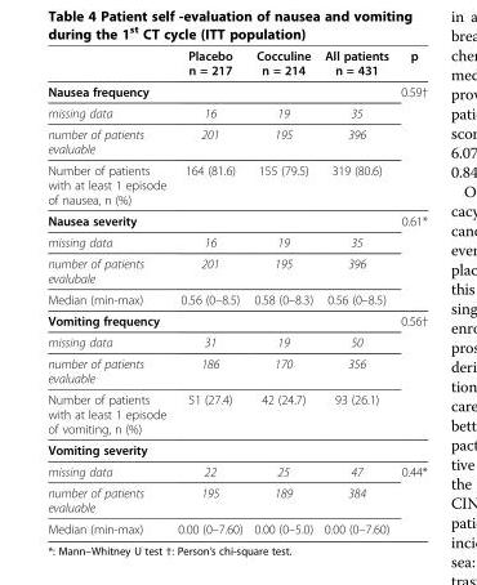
<table><thead><tr><td></td><td>Placebo n = 217</td><td>Cocculine n = 214</td><td>All patients n = 431</td><td>p</td></tr></thead><tbody><tr><td>Nausea frequency</td><td></td><td></td><td></td><td>0.59†</td></tr><tr><td>missing data</td><td>16</td><td>19</td><td>35</td><td></td></tr><tr><td>number of patients evaluable</td><td>201</td><td>195</td><td>396</td><td></td></tr><tr><td>Number of patients with at least 1 episode of nausea, n (%)</td><td>164 (81.6)</td><td>155 (79.5)</td><td>319 (80.6)</td><td></td></tr><tr><td colspan="4">Nausea severity</td><td>0.61*</td></tr><tr><td>missing data</td><td>16</td><td>19</td><td>35</td><td></td></tr><tr><td>number of patients evalubale</td><td>201</td><td>195</td><td>396</td><td></td></tr><tr><td>Median (min-max)</td><td>0.56 (0–8.5)</td><td>0.58 (0–8.3)</td><td>0.56 (0–8.5)</td><td></td></tr><tr><td>Vomiting frequency</td><td></td><td></td><td></td><td>0.56†</td></tr><tr><td>missing data</td><td>31</td><td>19</td><td>50</td><td></td></tr><tr><td>number of patients evaluable</td><td>186</td><td>170</td><td>356</td><td></td></tr><tr><td>Number of patients with at least 1 episode of vomiting, n (%)</td><td>51 (27.4)</td><td>42 (24.7)</td><td>93 (26.1)</td><td></td></tr><tr><td colspan="5">Vomiting severity</td></tr><tr><td>missing data</td><td>22</td><td>25</td><td>47</td><td>0.44*</td></tr><tr><td>number of patients evaluable</td><td>195</td><td>189</td><td>384</td><td></td></tr><tr><td>Median (min-max)</td><td>0.00 (0–7.60)</td><td>0.00 (0–5.0)</td><td>0.00 (0–7.60)</td><td></td></tr></tbody></table>